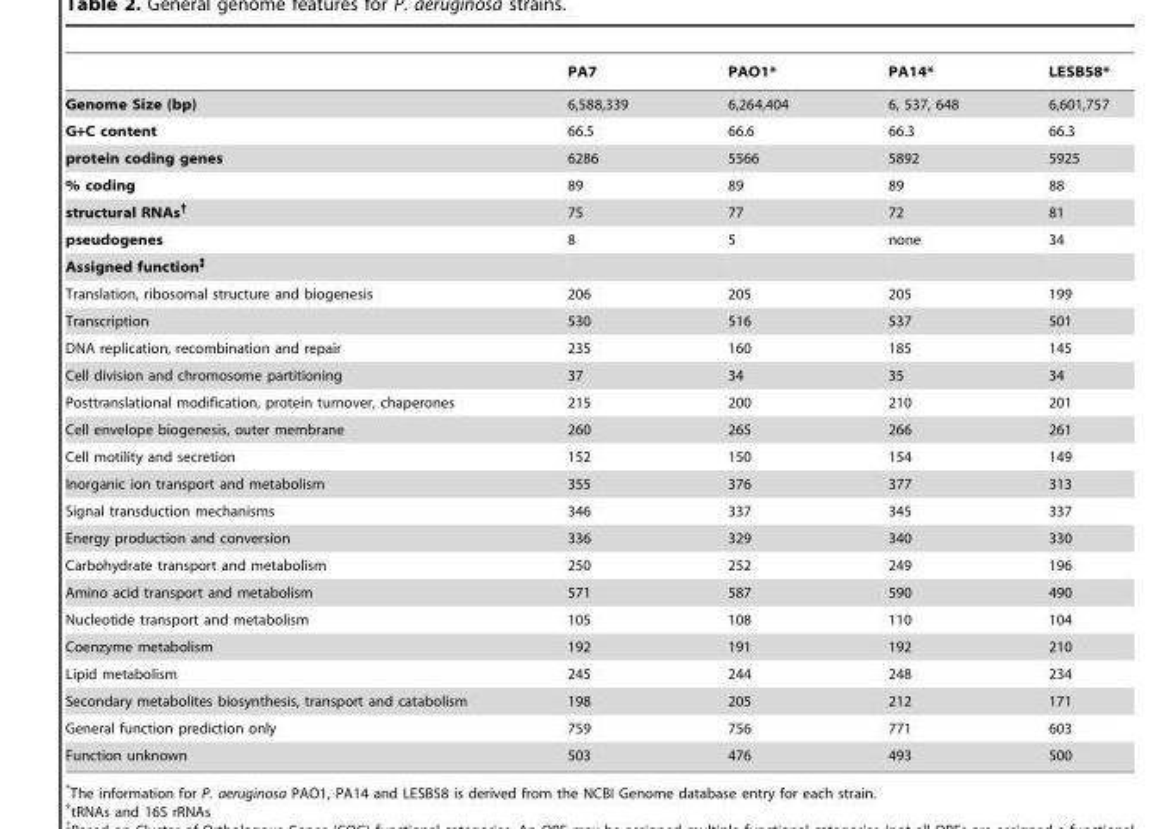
<table><thead><tr><td></td><td>PA7</td><td>PAO1*</td><td>PA14*</td><td>LESB58*</td></tr></thead><tbody><tr><td>Genome Size (bp)</td><td>6,588,339</td><td>6,264,404</td><td>6, 537, 648</td><td>6,601,757</td></tr><tr><td>G+C content</td><td>66.5</td><td>66.6</td><td>66.3</td><td>66.3</td></tr><tr><td>protein coding genes</td><td>6286</td><td>5566</td><td>5892</td><td>5925</td></tr><tr><td>% coding</td><td>89</td><td>89</td><td>89</td><td>88</td></tr><tr><td>structural RNAs†</td><td>75</td><td>77</td><td>72</td><td>81</td></tr><tr><td>pseudogenes</td><td>8</td><td>5</td><td>none</td><td>34</td></tr><tr><td colspan="5">Assigned function‡</td></tr><tr><td>Translation, ribosomal structure and biogenesis</td><td>206</td><td>205</td><td>205</td><td>199</td></tr><tr><td>Transcription</td><td>530</td><td>516</td><td>537</td><td>501</td></tr><tr><td>DNA replication, recombination and repair</td><td>235</td><td>160</td><td>185</td><td>145</td></tr><tr><td>Cell division and chromosome partitioning</td><td>37</td><td>34</td><td>35</td><td>34</td></tr><tr><td>Posttranslational modification, protein turnover, chaperones</td><td>215</td><td>200</td><td>210</td><td>201</td></tr><tr><td>Cell envelope biogenesis, outer membrane</td><td>260</td><td>265</td><td>266</td><td>261</td></tr><tr><td>Cell motility and secretion</td><td>152</td><td>150</td><td>154</td><td>149</td></tr><tr><td>Inorganic ion transport and metabolism</td><td>355</td><td>376</td><td>377</td><td>313</td></tr><tr><td>Signal transduction mechanisms</td><td>346</td><td>337</td><td>345</td><td>337</td></tr><tr><td>Energy production and conversion</td><td>336</td><td>329</td><td>340</td><td>330</td></tr><tr><td>Carbohydrate transport and metabolism</td><td>250</td><td>252</td><td>249</td><td>196</td></tr><tr><td>Amino acid transport and metabolism</td><td>571</td><td>587</td><td>590</td><td>490</td></tr><tr><td>Nucleotide transport and metabolism</td><td>105</td><td>108</td><td>110</td><td>104</td></tr><tr><td>Coenzyme metabolism</td><td>192</td><td>191</td><td>192</td><td>210</td></tr><tr><td>Lipid metabolism</td><td>245</td><td>244</td><td>248</td><td>234</td></tr><tr><td>Secondary metabolites biosynthesis, transport and catabolism</td><td>198</td><td>205</td><td>212</td><td>171</td></tr><tr><td>General function prediction only</td><td>759</td><td>756</td><td>771</td><td>603</td></tr><tr><td>Function unknown</td><td>503</td><td>476</td><td>493</td><td>500</td></tr></tbody></table>